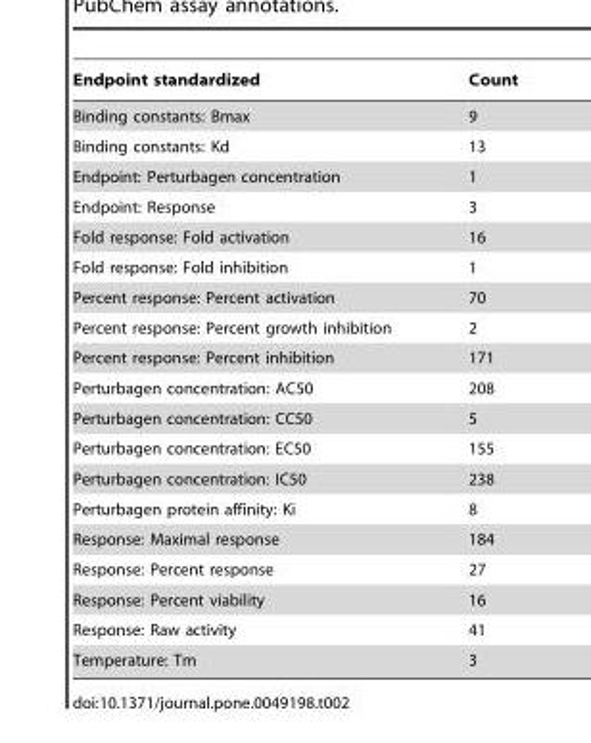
<table><thead><tr><td>Endpoint standardized</td><td>Count</td></tr></thead><tbody><tr><td>Binding constants: Bmax</td><td>9</td></tr><tr><td>Binding constants: Kd</td><td>13</td></tr><tr><td>Endpoint: Perturbagen concentration</td><td>1</td></tr><tr><td>Endpoint: Response</td><td>3</td></tr><tr><td>Fold response: Fold activation</td><td>16</td></tr><tr><td>Fold response: Fold inhibition</td><td>1</td></tr><tr><td>Percent response: Percent activation</td><td>70</td></tr><tr><td>Percent response: Percent growth inhibition</td><td>2</td></tr><tr><td>Percent response: Percent inhibition</td><td>171</td></tr><tr><td>Perturbagen concentration: AC50</td><td>208</td></tr><tr><td>Perturbagen concentration: CC50</td><td>5</td></tr><tr><td>Perturbagen concentration: EC50</td><td>155</td></tr><tr><td>Perturbagen concentration: IC50</td><td>238</td></tr><tr><td>Perturbagen protein affinity: Ki</td><td>8</td></tr><tr><td>Response: Maximal response</td><td>184</td></tr><tr><td>Response: Percent response</td><td>27</td></tr><tr><td>Response: Percent viability</td><td>16</td></tr><tr><td>Response: Raw activity</td><td>41</td></tr><tr><td>Temperature: Tm</td><td>3</td></tr></tbody></table>